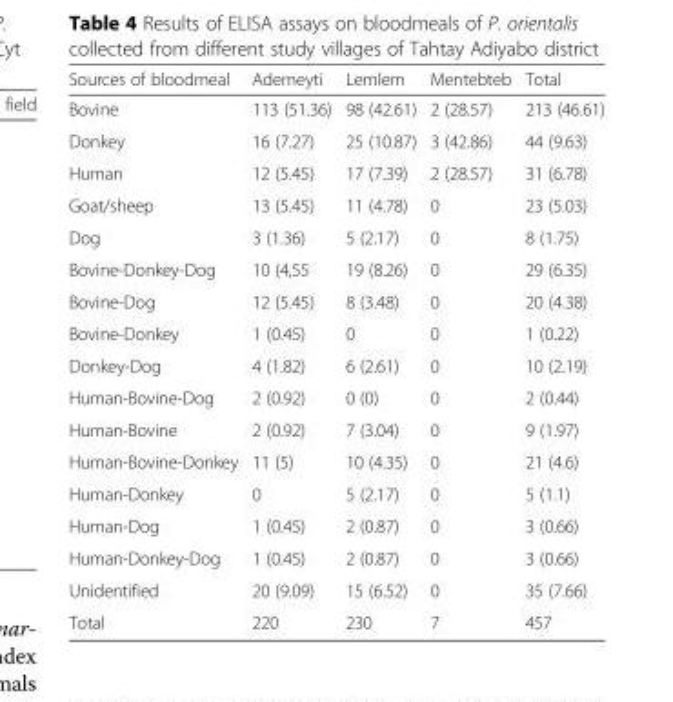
<table><thead><tr><td>Sources of bloodmeal</td><td>Ademeyti</td><td>Lemlem</td><td>Mentebteb</td><td>Total</td></tr></thead><tbody><tr><td>Bovine</td><td>113 (51.36)</td><td>98 (42.61)</td><td>2 (28.57)</td><td>213 (46.61)</td></tr><tr><td>Donkey</td><td>16 (7.27)</td><td>25 (10.87)</td><td>3 (42.86)</td><td>44 (9.63)</td></tr><tr><td>Human</td><td>12 (5.45)</td><td>17 (7.39)</td><td>2 (28.57)</td><td>31 (6.78)</td></tr><tr><td>Goat/sheep</td><td>13 (5.45)</td><td>11 (4.78)</td><td>0</td><td>23 (5.03)</td></tr><tr><td>Dog</td><td>3 (1.36)</td><td>5 (2.17)</td><td>0</td><td>8 (1.75)</td></tr><tr><td>Bovine-Donkey-Dog</td><td>10 (4,55</td><td>19 (8.26)</td><td>0</td><td>29 (6.35)</td></tr><tr><td>Bovine-Dog</td><td>12 (5.45)</td><td>8 (3.48)</td><td>0</td><td>20 (4.38)</td></tr><tr><td>Bovine-Donkey</td><td>1 (0.45)</td><td>0</td><td>0</td><td>1 (0.22)</td></tr><tr><td>Donkey-Dog</td><td>4 (1.82)</td><td>6 (2.61)</td><td>0</td><td>10 (2.19)</td></tr><tr><td>Human-Bovine-Dog</td><td>2 (0.92)</td><td>0 (0)</td><td>0</td><td>2 (0.44)</td></tr><tr><td>Human-Bovine</td><td>2 (0.92)</td><td>7 (3.04)</td><td>0</td><td>9 (1.97)</td></tr><tr><td>Human-Bovine-Donkey</td><td>11 (5)</td><td>10 (4.35)</td><td>0</td><td>21 (4.6)</td></tr><tr><td>Human-Donkey</td><td>0</td><td>5 (2.17)</td><td>0</td><td>5 (1.1)</td></tr><tr><td>Human-Dog</td><td>1 (0.45)</td><td>2 (0.87)</td><td>0</td><td>3 (0.66)</td></tr><tr><td>Human-Donkey-Dog</td><td>1 (0.45)</td><td>2 (0.87)</td><td>0</td><td>3 (0.66)</td></tr><tr><td>Unidentified</td><td>20 (9.09)</td><td>15 (6.52)</td><td>0</td><td>35 (7.66)</td></tr><tr><td>Total</td><td>220</td><td>230</td><td>7</td><td>457</td></tr></tbody></table>